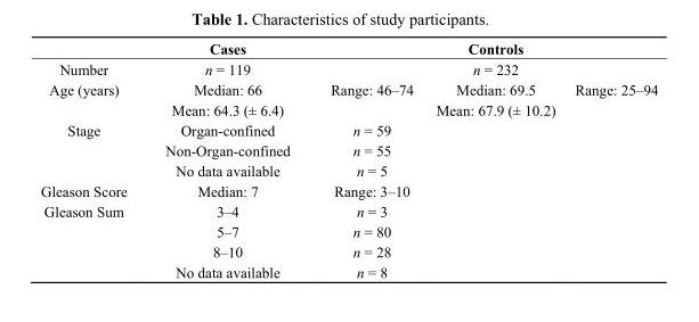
<table><thead><tr><td></td><td>Cases</td><td></td><td>Controls</td><td></td></tr></thead><tbody><tr><td>Number</td><td>n = 119</td><td></td><td>n = 232</td><td></td></tr><tr><td rowspan="2">Age (years)</td><td>Median: 66</td><td>Range: 46–74</td><td>Median: 69.5</td><td>Range: 25–94</td></tr><tr><td>Mean: 64.3 (± 6.4)</td><td></td><td>Mean: 67.9 (± 10.2)</td><td></td></tr><tr><td rowspan="3">Stage</td><td>Organ-confined</td><td>n = 59</td><td></td><td></td></tr><tr><td>Non-Organ-confined</td><td>n = 55</td><td></td><td></td></tr><tr><td>No data available</td><td>n = 5</td><td></td><td></td></tr><tr><td>Gleason Score</td><td>Median: 7</td><td>Range: 3–10</td><td></td><td></td></tr><tr><td rowspan="4">Gleason Sum</td><td>3–4</td><td>n = 3</td><td></td><td></td></tr><tr><td>5–7</td><td>n = 80</td><td></td><td></td></tr><tr><td>8–10</td><td>n = 28</td><td></td><td></td></tr><tr><td>No data available</td><td>n = 8</td><td></td><td></td></tr></tbody></table>